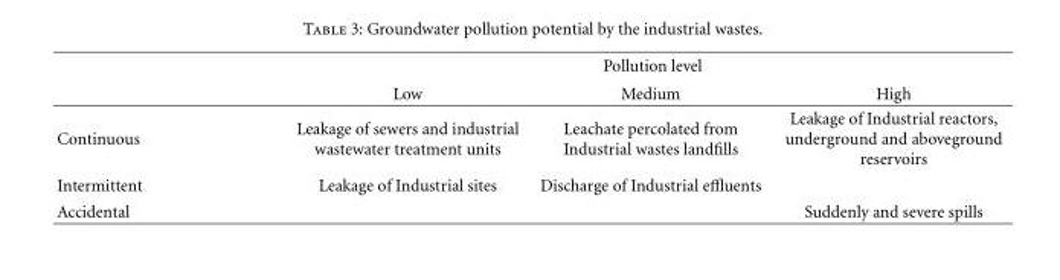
<table><thead><tr><td rowspan="2"></td><td colspan="3">Pollution level</td></tr><tr><td>Low</td><td>Medium</td><td>High</td></tr></thead><tbody><tr><td>Continuous</td><td>Leakage of sewers and industrial wastewater treatment units</td><td>Leachate percolated from Industrial wastes landfills</td><td>Leakage of Industrial reactors, underground and aboveground reservoirs</td></tr><tr><td>Intermittent</td><td>Leakage of Industrial sites</td><td>Discharge of Industrial effluents</td><td></td></tr><tr><td>Accidental</td><td></td><td></td><td>Suddenly and severe spills</td></tr></tbody></table>